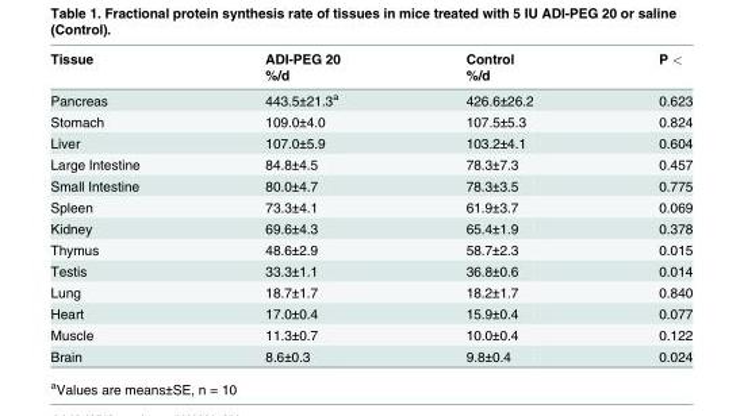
<table><thead><tr><td rowspan="2">Tissue</td><td rowspan="2">ADI-PEG 20 %/d</td><td rowspan="2">Control %/d</td><td rowspan="2">P &lt;</td></tr><tr></tr></thead><tbody><tr><td>Pancreas</td><td>443.5±21.3<sup>a</sup></td><td>426.6±26.2</td><td>0.623</td></tr><tr><td>Stomach</td><td>109.0±4.0</td><td>107.5±5.3</td><td>0.824</td></tr><tr><td>Liver</td><td>107.0±5.9</td><td>103.2±4.1</td><td>0.604</td></tr><tr><td>Large Intestine</td><td>84.8±4.5</td><td>78.3±7.3</td><td>0.457</td></tr><tr><td>Small Intestine</td><td>80.0±4.7</td><td>78.3±3.5</td><td>0.775</td></tr><tr><td>Spleen</td><td>73.3±4.1</td><td>61.9±3.7</td><td>0.069</td></tr><tr><td>Kidney</td><td>69.6±4.3</td><td>65.4±1.9</td><td>0.378</td></tr><tr><td>Thymus</td><td>48.6±2.9</td><td>58.7±2.3</td><td>0.015</td></tr><tr><td>Testis</td><td>33.3±1.1</td><td>36.8±0.6</td><td>0.014</td></tr><tr><td>Lung</td><td>18.7±1.7</td><td>18.2±1.7</td><td>0.840</td></tr><tr><td>Heart</td><td>17.0±0.4</td><td>15.9±0.4</td><td>0.077</td></tr><tr><td>Muscle</td><td>11.3±0.7</td><td>10.0±0.4</td><td>0.122</td></tr><tr><td>Brain</td><td>8.6±0.3</td><td>9.8±0.4</td><td>0.024</td></tr></tbody></table>